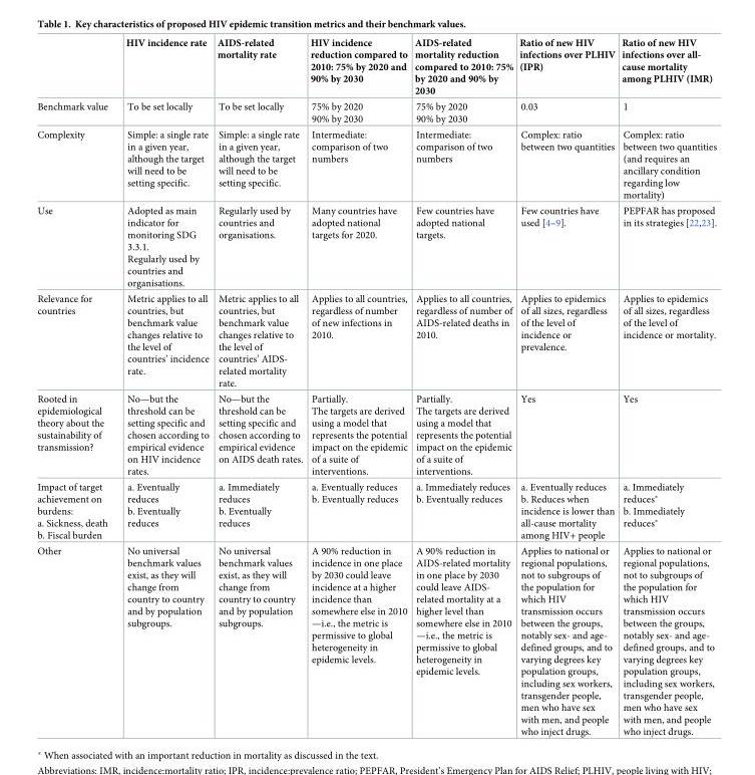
<table><thead><tr><td></td><td>HIV incidence rate</td><td>AIDS-related mortality rate</td><td>HIV incidence reduction compared to 2010: 75% by 2020 and 90% by 2030</td><td>AIDS-related mortality reduction compared to 2010: 75% by 2020 and 90% by 2030</td><td>Ratio of new HIV infections over PLHIV (IPR)</td><td>Ratio of new HIV infections over all- cause mortality among PLHIV (IMR)</td></tr></thead><tbody><tr><td>Benchmark value</td><td>To be set locally</td><td>To be set locally</td><td>75% by 2020 90% by 2030</td><td>75% by 2020 90% by 2030</td><td>0.03</td><td>1</td></tr><tr><td>Complexity</td><td>Simple: a single rate in a given year, although the target will need to be setting specific.</td><td>Simple: a single rate in a given year, although the target will need to be setting specific.</td><td>Intermediate: comparison of two numbers</td><td>Intermediate: comparison of two numbers</td><td>Complex: ratio between two quantities</td><td>Complex: ratio between two quantities (and requires an ancillary condition regarding low mortality)</td></tr><tr><td>Use</td><td>Adopted as main indicator for monitoring SDG 3.3.1. Regularly used by countries and organisations.</td><td>Regularly used by countries and organisations.</td><td>Many countries have adopted national targets for 2020.</td><td>Few countries have adopted national targets.</td><td>Few countries have used [4–9].</td><td>PEPFAR has proposed in its strategies [22,23].</td></tr><tr><td>Relevance for countries</td><td>Metric applies to all countries, but benchmark value changes relative to the level of countries’ incidence rate.</td><td>Metric applies to all countries, but benchmark value changes relative to the level of countries’ AIDS- related mortality rate.</td><td>Applies to all countries, regardless of number of new infections in 2010.</td><td>Applies to all countries, regardless of number of AIDS-related deaths in 2010.</td><td>Applies to epidemics of all sizes, regardless of the level of incidence or prevalence.</td><td>Applies to epidemics of all sizes, regardless of the level of incidence or mortality.</td></tr><tr><td>Rooted in epidemiological theory about the sustainability of transmission?</td><td>No—but the threshold can be setting specific and chosen according to empirical evidence on HIV incidence rates.</td><td>No—but the threshold can be setting specific and chosen according to empirical evidence on AIDS death rates.</td><td>Partially. The targets are derived using a model that represents the potential impact on the epidemic of a suite of interventions.</td><td>Partially. The targets are derived using a model that represents the potential impact on the epidemic of a suite of interventions.</td><td>Yes</td><td>Yes</td></tr><tr><td>Impact of target achievement on burdens: a. Sickness, death b. Fiscal burden</td><td>a. Eventually reduces b. Eventually reduces</td><td>a. Immediately reduces b. Eventually reduces</td><td>a. Eventually reduces b. Eventually reduces</td><td>a. Immediately reduces b. Eventually reduces</td><td>a. Eventually reduces b. Reduces when incidence is lower than all-cause mortality among HIV+ people</td><td>a. Immediately reduces* b. Immediately reduces*</td></tr><tr><td>Other</td><td>No universal benchmark values exist, as they will change from country to country and by population subgroups.</td><td>No universal benchmark values exist, as they will change from country to country and by population subgroups.</td><td>A 90% reduction in incidence in one place by 2030 could leave incidence at a higher incidence than somewhere else in 2010 —i.e., the metric is permissive to global heterogeneity in epidemic levels.</td><td>A 90% reduction in AIDS-related mortality in one place by 2030 could leave AIDS- related mortality at a higher level than somewhere else in 2010 —i.e., the metric is permissive to global heterogeneity in epidemic levels.</td><td>Applies to national or regional populations, not to subgroups of the population for which HIV transmission occurs between the groups, notably sex- and age- defined groups, and to varying degrees key population groups, including sex workers, transgender people, men who have sex with men, and people who inject drugs.</td><td>Applies to national or regional populations, not to subgroups of the population for which HIV transmission occurs between the groups, notably sex- and age- defined groups, and to varying degrees key population groups, including sex workers, transgender people, men who have sex with men, and people who inject drugs.</td></tr></tbody></table>